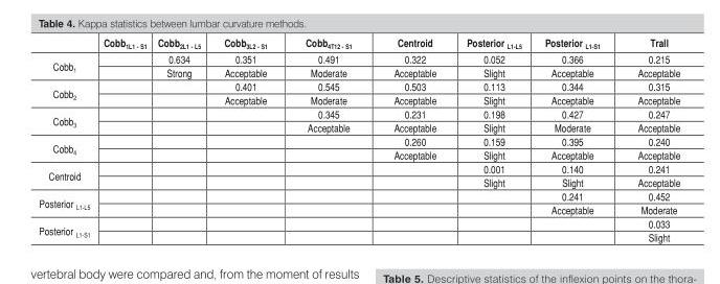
<table><thead><tr><td></td><td>Cobb<sub>1L1 - S1</sub></td><td>Cobb<sub>2L1 - L5</sub></td><td>Cobb<sub>3L2 - S1</sub></td><td>Cobb<sub>4T12 - S1</sub></td><td>Centroid</td><td>Posterior <sub>L1-L5</sub></td><td>Posterior <sub>L1-S1</sub></td><td>Trall</td></tr></thead><tbody><tr><td rowspan="2">Cobb<sub>1</sub></td><td></td><td>0.634</td><td>0.351</td><td>0.491</td><td>0.322</td><td>0.052</td><td>0.366</td><td>0.215</td></tr><tr><td></td><td>Strong</td><td>Acceptable</td><td>Moderate</td><td>Acceptable</td><td>Slight</td><td>Acceptable</td><td>Acceptable</td></tr><tr><td rowspan="2">Cobb<sub>2</sub></td><td></td><td></td><td>0.401</td><td>0.545</td><td>0.503</td><td>0.113</td><td>0.344</td><td>0.315</td></tr><tr><td></td><td></td><td>Acceptable</td><td>Moderate</td><td>Acceptable</td><td>Slight</td><td>Acceptable</td><td>Acceptable</td></tr><tr><td rowspan="2">Cobb<sub>3</sub></td><td></td><td></td><td></td><td>0.345</td><td>0.231</td><td>0.198</td><td>0.427</td><td>0.247</td></tr><tr><td></td><td></td><td></td><td>Acceptable</td><td>Acceptable</td><td>Slight</td><td>Moderate</td><td>Acceptable</td></tr><tr><td rowspan="2">Cobb<sub>4</sub></td><td></td><td></td><td></td><td></td><td>0.260</td><td>0.159</td><td>0.395</td><td>0.240</td></tr><tr><td></td><td></td><td></td><td></td><td>Acceptable</td><td>Slight</td><td>Acceptable</td><td>Acceptable</td></tr><tr><td rowspan="2">Centroid</td><td></td><td></td><td></td><td></td><td></td><td>0.001</td><td>0.140</td><td>0.241</td></tr><tr><td></td><td></td><td></td><td></td><td></td><td>Slight</td><td>Slight</td><td>Acceptable</td></tr><tr><td rowspan="2">Posterior <sub>L1-L5</sub></td><td></td><td></td><td></td><td></td><td></td><td></td><td>0.241</td><td>0.452</td></tr><tr><td></td><td></td><td></td><td></td><td></td><td></td><td>Acceptable</td><td>Moderate</td></tr><tr><td rowspan="2">Posterior <sub>L1-S1</sub></td><td></td><td></td><td></td><td></td><td></td><td></td><td></td><td>0.033</td></tr><tr><td></td><td></td><td></td><td></td><td></td><td></td><td></td><td>Slight</td></tr></tbody></table>